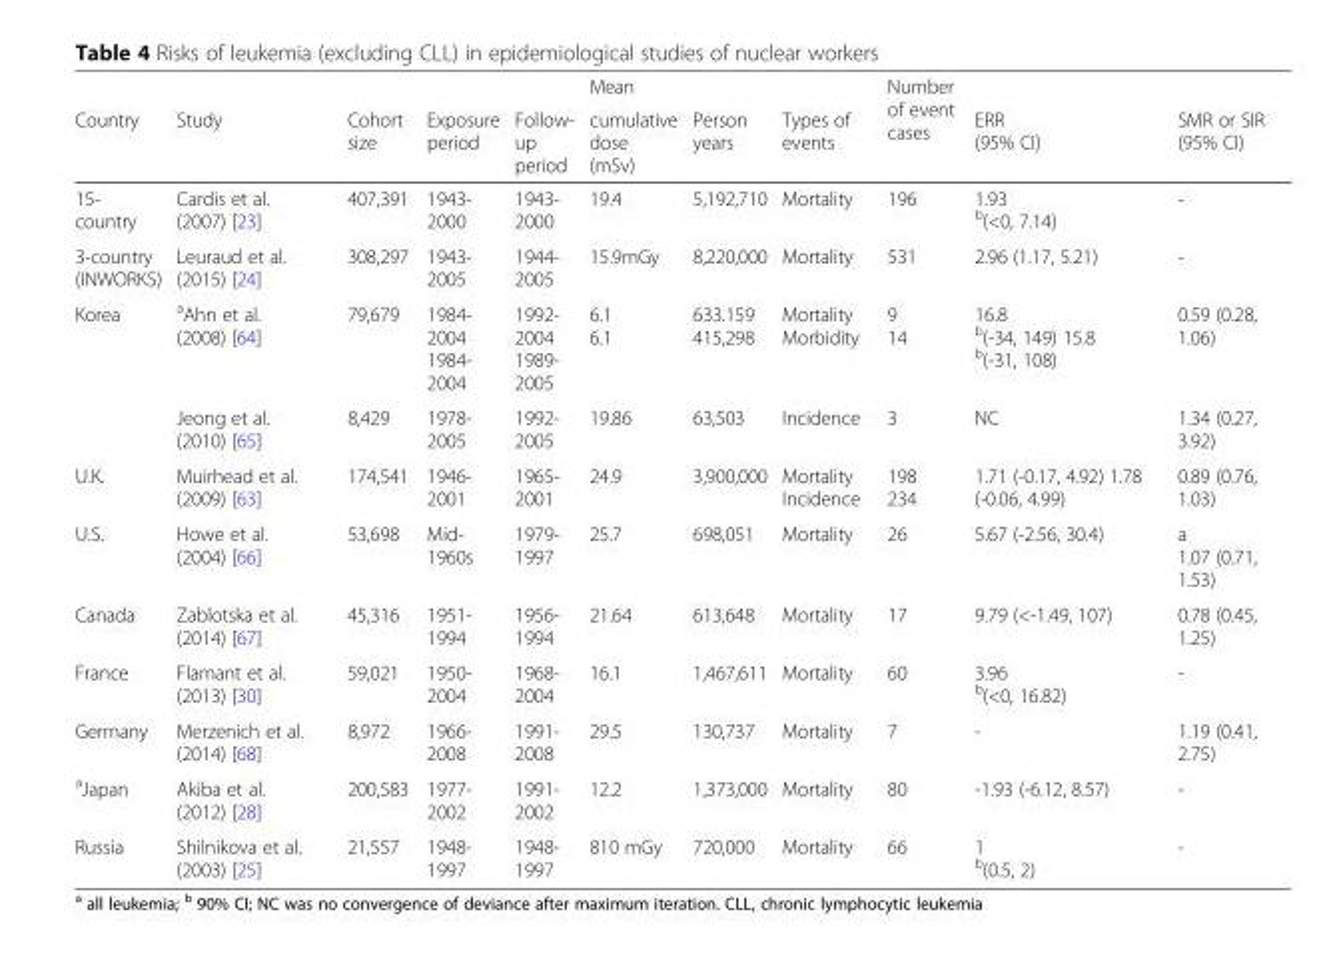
<table><thead><tr><td rowspan="2">Country</td><td rowspan="2">Study</td><td rowspan="2">Cohort size</td><td rowspan="2">Exposure period</td><td rowspan="2">Follow- up period</td><td rowspan="2">Mean cumulative dose (mSv)</td><td rowspan="2">Person years</td><td rowspan="2">Types of events</td><td rowspan="2">Number of event cases</td><td rowspan="2">ERR (95% CI)</td><td rowspan="2">SMR or SIR (95% CI)</td></tr><tr></tr></thead><tbody><tr><td>15- country</td><td>Cardis et al. (2007) [23]</td><td>407,391</td><td>1943- 2000</td><td>1943- 2000</td><td>19.4</td><td>5,192,710</td><td>Mortality</td><td>196</td><td>1.93 <sup>b</sup>(&lt;0, 7.14)</td><td>-</td></tr><tr><td>3-country (INWORKS)</td><td>Leuraud et al. (2015) [24]</td><td>308,297</td><td>1943- 2005</td><td>1944- 2005</td><td>15.9mGy</td><td>8,220,000</td><td>Mortality</td><td>531</td><td>2.96 (1.17, 5.21)</td><td>-</td></tr><tr><td rowspan="2">Korea</td><td><sup>a</sup>Ahn et al. (2008) [64]</td><td>79,679</td><td>1984- 2004 1984- 2004</td><td>1992- 2004 1989- 2005</td><td>6.1 6.1</td><td>633.159 415,298</td><td>Mortality Morbidity</td><td>9 14</td><td>16.8 <sup>b</sup>(-34, 149) 15.8 <sup>b</sup>(-31, 108)</td><td>0.59 (0.28, 1.06)</td></tr><tr><td>Jeong et al. (2010) [65]</td><td>8,429</td><td>1978- 2005</td><td>1992- 2005</td><td>19.86</td><td>63,503</td><td>Incidence</td><td>3</td><td>NC</td><td>1.34 (0.27, 3.92)</td></tr><tr><td>U.K.</td><td>Muirhead et al. (2009) [63]</td><td>174,541</td><td>1946- 2001</td><td>1965- 2001</td><td>24.9</td><td>3,900,000</td><td>Mortality Incidence</td><td>198 234</td><td>1.71 (-0.17, 4.92) 1.78 (-0.06, 4.99)</td><td>0.89 (0.76, 1.03)</td></tr><tr><td>U.S.</td><td>Howe et al. (2004) [66]</td><td>53,698</td><td>Mid- 1960s</td><td>1979- 1997</td><td>25.7</td><td>698,051</td><td>Mortality</td><td>26</td><td>5.67 (-2.56, 30.4)</td><td>a 1.07 (0.71, 1.53)</td></tr><tr><td>Canada</td><td>Zablotska et al. (2014) [67]</td><td>45,316</td><td>1951- 1994</td><td>1956- 1994</td><td>21.64</td><td>613,648</td><td>Mortality</td><td>17</td><td>9.79 (&lt;-1.49, 107)</td><td>0.78 (0.45, 1.25)</td></tr><tr><td>France</td><td>Flamant et al. (2013) [30]</td><td>59,021</td><td>1950- 2004</td><td>1968- 2004</td><td>16.1</td><td>1,467,611</td><td>Mortality</td><td>60</td><td>3.96 <sup>b</sup>(&lt;0, 16.82)</td><td>-</td></tr><tr><td>Germany</td><td>Merzenich et al. (2014) [68]</td><td>8,972</td><td>1966- 2008</td><td>1991- 2008</td><td>29.5</td><td>130,737</td><td>Mortality</td><td>7</td><td>-</td><td>1.19 (0.41, 2.75)</td></tr><tr><td><sup>a</sup>Japan</td><td>Akiba et al. (2012) [28]</td><td>200,583</td><td>1977- 2002</td><td>1991- 2002</td><td>12.2</td><td>1,373,000</td><td>Mortality</td><td>80</td><td>-1.93 (-6.12, 8.57)</td><td>-</td></tr><tr><td>Russia</td><td>Shilnikova et al. (2003) [25]</td><td>21,557</td><td>1948- 1997</td><td>1948- 1997</td><td>810 mGy</td><td>720,000</td><td>Mortality</td><td>66</td><td>1 <sup>b</sup>(0.5, 2)</td><td>-</td></tr></tbody></table>